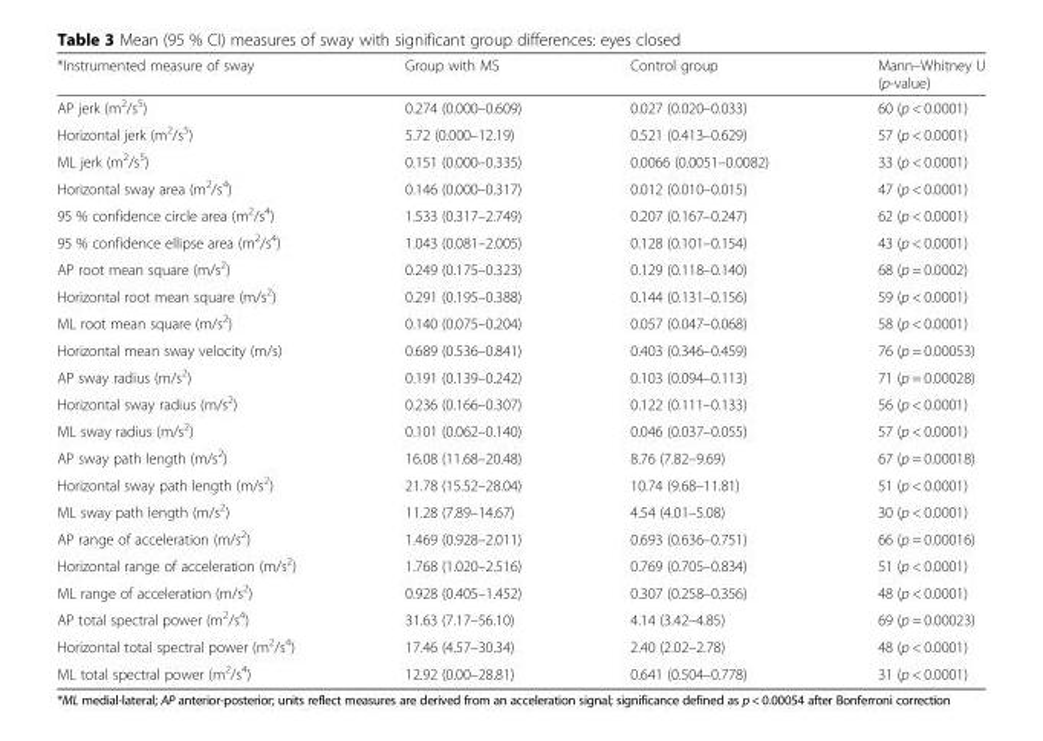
<table><thead><tr><td>*Instrumented measure of sway</td><td>Group with MS</td><td>Control group</td><td>Mann–Whitney U (p-value)</td></tr></thead><tbody><tr><td>AP jerk (m<sup>2</sup>/s<sup>5</sup>)</td><td>0.274 (0.000–0.609)</td><td>0.027 (0.020–0.033)</td><td>60 (p &lt; 0.0001)</td></tr><tr><td>Horizontal jerk (m<sup>2</sup>/s<sup>5</sup>)</td><td>5.72 (0.000–12.19)</td><td>0.521 (0.413–0.629)</td><td>57 (p &lt; 0.0001)</td></tr><tr><td>ML jerk (m<sup>2</sup>/s<sup>5</sup>)</td><td>0.151 (0.000–0.335)</td><td>0.0066 (0.0051–0.0082)</td><td>33 (p &lt; 0.0001)</td></tr><tr><td>Horizontal sway area (m<sup>2</sup>/s<sup>4</sup>)</td><td>0.146 (0.000–0.317)</td><td>0.012 (0.010–0.015)</td><td>47 (p &lt; 0.0001)</td></tr><tr><td>95 % confidence circle area (m<sup>2</sup>/s<sup>4</sup>)</td><td>1.533 (0.317–2.749)</td><td>0.207 (0.167–0.247)</td><td>62 (p &lt; 0.0001)</td></tr><tr><td>95 % confidence ellipse area (m<sup>2</sup>/s<sup>4</sup>)</td><td>1.043 (0.081–2.005)</td><td>0.128 (0.101–0.154)</td><td>43 (p &lt; 0.0001)</td></tr><tr><td>AP root mean square (m/s<sup>2</sup>)</td><td>0.249 (0.175–0.323)</td><td>0.129 (0.118–0.140)</td><td>68 (p = 0.0002)</td></tr><tr><td>Horizontal root mean square (m/s<sup>2</sup>)</td><td>0.291 (0.195–0.388)</td><td>0.144 (0.131–0.156)</td><td>59 (p &lt; 0.0001)</td></tr><tr><td>ML root mean square (m/s<sup>2</sup>)</td><td>0.140 (0.075–0.204)</td><td>0.057 (0.047–0.068)</td><td>58 (p &lt; 0.0001)</td></tr><tr><td>Horizontal mean sway velocity (m/s)</td><td>0.689 (0.536–0.841)</td><td>0.403 (0.346–0.459)</td><td>76 (p = 0.00053)</td></tr><tr><td>AP sway radius (m/s<sup>2</sup>)</td><td>0.191 (0.139–0.242)</td><td>0.103 (0.094–0.113)</td><td>71 (p = 0.00028)</td></tr><tr><td>Horizontal sway radius (m/s<sup>2</sup>)</td><td>0.236 (0.166–0.307)</td><td>0.122 (0.111–0.133)</td><td>56 (p &lt; 0.0001)</td></tr><tr><td>ML sway radius (m/s<sup>2</sup>)</td><td>0.101 (0.062–0.140)</td><td>0.046 (0.037–0.055)</td><td>57 (p &lt; 0.0001)</td></tr><tr><td>AP sway path length (m/s<sup>2</sup>)</td><td>16.08 (11.68–20.48)</td><td>8.76 (7.82–9.69)</td><td>67 (p = 0.00018)</td></tr><tr><td>Horizontal sway path length (m/s<sup>2</sup>)</td><td>21.78 (15.52–28.04)</td><td>10.74 (9.68–11.81)</td><td>51 (p &lt; 0.0001)</td></tr><tr><td>ML sway path length (m/s<sup>2</sup>)</td><td>11.28 (7.89–14.67)</td><td>4.54 (4.01–5.08)</td><td>30 (p &lt; 0.0001)</td></tr><tr><td>AP range of acceleration (m/s<sup>2</sup>)</td><td>1.469 (0.928–2.011)</td><td>0.693 (0.636–0.751)</td><td>66 (p = 0.00016)</td></tr><tr><td>Horizontal range of acceleration (m/s<sup>2</sup>)</td><td>1.768 (1.020–2.516)</td><td>0.769 (0.705–0.834)</td><td>51 (p &lt; 0.0001)</td></tr><tr><td>ML range of acceleration (m/s<sup>2</sup>)</td><td>0.928 (0.405–1.452)</td><td>0.307 (0.258–0.356)</td><td>48 (p &lt; 0.0001)</td></tr><tr><td>AP total spectral power (m<sup>2</sup>/s<sup>4</sup>)</td><td>31.63 (7.17–56.10)</td><td>4.14 (3.42–4.85)</td><td>69 (p = 0.00023)</td></tr><tr><td>Horizontal total spectral power (m<sup>2</sup>/s<sup>4</sup>)</td><td>17.46 (4.57–30.34)</td><td>2.40 (2.02–2.78)</td><td>48 (p &lt; 0.0001)</td></tr><tr><td>ML total spectral power (m<sup>2</sup>/s<sup>4</sup>)</td><td>12.92 (0.00–28.81)</td><td>0.641 (0.504–0.778)</td><td>31 (p &lt; 0.0001)</td></tr></tbody></table>